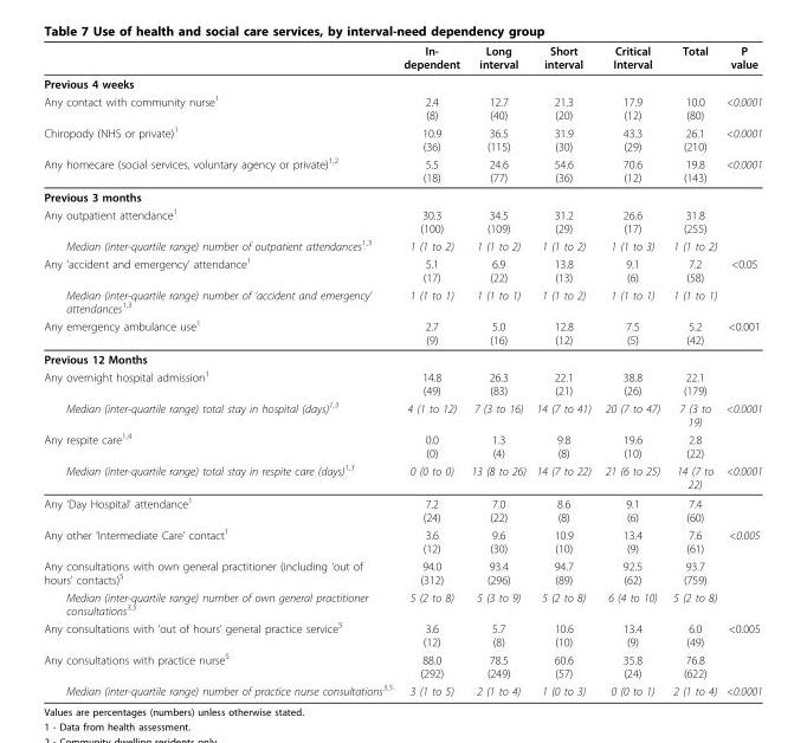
<table><thead><tr><td></td><td>In- dependent</td><td>Long interval</td><td>Short interval</td><td>Critical Interval</td><td>Total</td><td>P value</td></tr></thead><tbody><tr><td colspan="7">Previous 4 weeks</td></tr><tr><td>Any contact with community nurse<sup>1</sup></td><td>2.4 (8)</td><td>12.7 (40)</td><td>21.3 (20)</td><td>17.9 (12)</td><td>10.0 (80)</td><td>&lt;0.0001</td></tr><tr><td>Chiropody (NHS or private)<sup>1</sup></td><td>10.9 (36)</td><td>36.5 (115)</td><td>31.9 (30)</td><td>43.3 (29)</td><td>26.1 (210)</td><td>&lt;0.0001</td></tr><tr><td>Any homecare (social services, voluntary agency or private)<sup>1,2</sup></td><td>5.5 (18)</td><td>24.6 (77)</td><td>54.6 (36)</td><td>70.6 (12)</td><td>19.8 (143)</td><td>&lt;0.0001</td></tr><tr><td colspan="7">Previous 3 months</td></tr><tr><td>Any outpatient attendance<sup>1</sup></td><td>30.3 (100)</td><td>34.5 (109)</td><td>31.2 (29)</td><td>26.6 (17)</td><td>31.8 (255)</td><td></td></tr><tr><td>Median (inter-quartile range) number of outpatient attendances<sup>1,3</sup></td><td>1 (1 to 2)</td><td>1 (1 to 2)</td><td>1 (1 to 2)</td><td>1 (1 to 3)</td><td>1 (1 to 2)</td><td></td></tr><tr><td>Any ‘accident and emergency’ attendance<sup>1</sup></td><td>5.1 (17)</td><td>6.9 (22)</td><td>13.8 (13)</td><td>9.1 (6)</td><td>7.2 (58)</td><td>&lt;0.05</td></tr><tr><td>Median (inter-quartile range) number of ‘accident and emergency’ attendances<sup>1,3</sup></td><td>1 (1 to 1)</td><td>1 (1 to 1)</td><td>1 (1 to 2)</td><td>1 (1 to 1)</td><td>1 (1 to 1)</td><td></td></tr><tr><td>Any emergency ambulance use<sup>1</sup></td><td>2.7 (9)</td><td>5.0 (16)</td><td>12.8 (12)</td><td>7.5 (5)</td><td>5.2 (42)</td><td>&lt;0.001</td></tr><tr><td colspan="7">Previous 12 Months</td></tr><tr><td>Any overnight hospital admission<sup>1</sup></td><td>14.8 (49)</td><td>26.3 (83)</td><td>22.1 (21)</td><td>38.8 (26)</td><td>22.1 (179)</td><td></td></tr><tr><td>Median (inter-quartile range) total stay in hospital (days)<sup>1,3</sup></td><td>4 (1 to 12)</td><td>7 (3 to 16)</td><td>14 (7 to 41)</td><td>20 (7 to 47)</td><td>7 (3 to 19)</td><td>&lt;0.0001</td></tr><tr><td>Any respite care<sup>1,4</sup></td><td>0.0 (0)</td><td>1.3 (4)</td><td>9.8 (8)</td><td>19.6 (10)</td><td>2.8 (22)</td><td></td></tr><tr><td>Median (inter-quartile range) total stay in respite care (days)<sup>1,3</sup></td><td>0 (0 to 0)</td><td>13 (8 to 26)</td><td>14 (7 to 22)</td><td>21 (6 to 25)</td><td>14 (7 to 22)</td><td>&lt;0.0001</td></tr><tr><td>Any ‘Day Hospital’ attendance<sup>1</sup></td><td>7.2 (24)</td><td>7.0 (22)</td><td>8.6 (8)</td><td>9.1 (6)</td><td>7.4 (60)</td><td></td></tr><tr><td>Any other ‘Intermediate Care’ contact<sup>1</sup></td><td>3.6 (12)</td><td>9.6 (30)</td><td>10.9 (10)</td><td>13.4 (9)</td><td>7.6 (61)</td><td>&lt;0.005</td></tr><tr><td>Any consultations with own general practitioner (including ‘out of hours’ contacts)<sup>5</sup></td><td>94.0 (312)</td><td>93.4 (296)</td><td>94.7 (89)</td><td>92.5 (62)</td><td>93.7 (759)</td><td></td></tr><tr><td>Median (inter-quartile range) number of own general practitioner consultations<sup>3,5</sup></td><td>5 (2 to 8)</td><td>5 (3 to 9)</td><td>5 (2 to 8)</td><td>6 (4 to 10)</td><td>5 (2 to 8)</td><td></td></tr><tr><td>Any consultations with ‘out of hours’ general practice service<sup>5</sup></td><td>3.6 (12)</td><td>5.7 (8)</td><td>10.6 (10)</td><td>13.4 (9)</td><td>6.0 (49)</td><td>&lt;0.005</td></tr><tr><td>Any consultations with practice nurse<sup>5</sup></td><td>88.0 (292)</td><td>78.5 (249)</td><td>60.6 (57)</td><td>35.8 (24)</td><td>76.8 (622)</td><td></td></tr><tr><td>Median (inter-quartile range) number of practice nurse consultations<sup>3,5</sup></td><td>3 (1 to 5)</td><td>2 (1 to 4)</td><td>1 (0 to 3)</td><td>0 (0 to 1)</td><td>2 (1 to 4)</td><td>&lt;0.0001</td></tr></tbody></table>